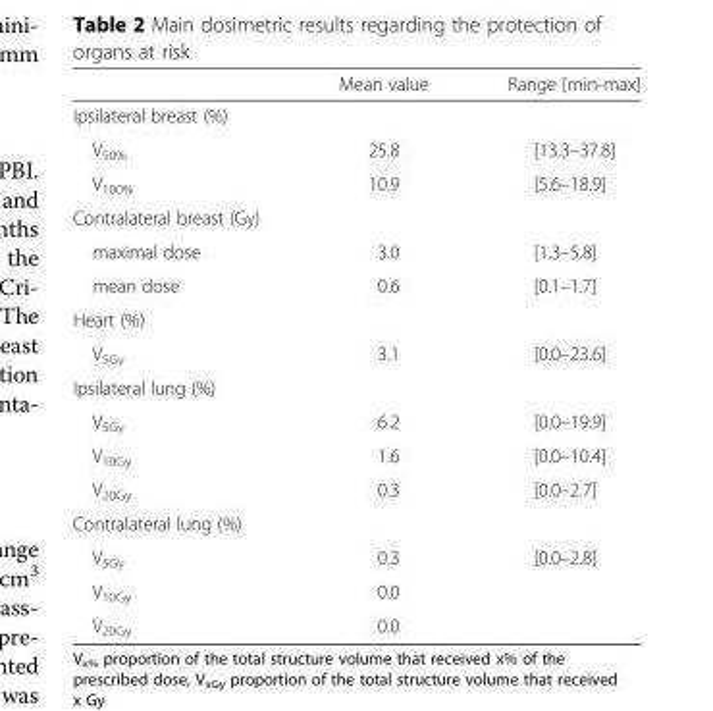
<table><thead><tr><td></td><td>Mean value</td><td>Range [min-max]</td></tr></thead><tbody><tr><td colspan="3">Ipsilateral breast (%)</td></tr><tr><td>V<sub>50%</sub></td><td>25.8</td><td>[13.3–37.8]</td></tr><tr><td>V<sub>100%</sub></td><td>10.9</td><td>[5.6–18.9]</td></tr><tr><td colspan="3">Contralateral breast (Gy)</td></tr><tr><td>maximal dose</td><td>3.0</td><td>[1.3–5.8]</td></tr><tr><td>mean dose</td><td>0.6</td><td>[0.1–1.7]</td></tr><tr><td colspan="3">Heart (%)</td></tr><tr><td>V<sub>5Gy</sub></td><td>3.1</td><td>[0.0–23.6]</td></tr><tr><td colspan="3">Ipsilateral lung (%)</td></tr><tr><td>V<sub>5Gy</sub></td><td>6.2</td><td>[0.0–19.9]</td></tr><tr><td>V<sub>10Gy</sub></td><td>1.6</td><td>[0.0–10.4]</td></tr><tr><td>V<sub>20Gy</sub></td><td>0.3</td><td>[0.0–2.7]</td></tr><tr><td colspan="3">Contralateral lung (%)</td></tr><tr><td>V<sub>5Gy</sub></td><td>0.3</td><td>[0.0–2.8]</td></tr><tr><td>V<sub>10Gy</sub></td><td>0.0</td><td></td></tr><tr><td>V<sub>20Gy</sub></td><td>0.0</td><td></td></tr></tbody></table>